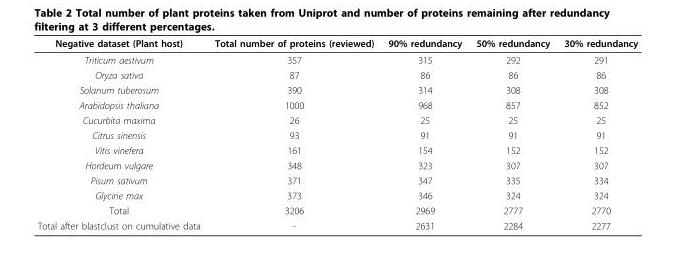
<table><thead><tr><td>Negative dataset (Plant host)</td><td>Total number of proteins (reviewed)</td><td>90% redundancy</td><td>50% redundancy</td><td>30% redundancy</td></tr></thead><tbody><tr><td>Triticum aestivum</td><td>357</td><td>315</td><td>292</td><td>291</td></tr><tr><td>Oryza sativa</td><td>87</td><td>86</td><td>86</td><td>86</td></tr><tr><td>Solanum tuberosum</td><td>390</td><td>314</td><td>308</td><td>308</td></tr><tr><td>Arabidopsis thaliana</td><td>1000</td><td>968</td><td>857</td><td>852</td></tr><tr><td>Cucurbita maxima</td><td>26</td><td>25</td><td>25</td><td>25</td></tr><tr><td>Citrus sinensis</td><td>93</td><td>91</td><td>91</td><td>91</td></tr><tr><td>Vitis vinefera</td><td>161</td><td>154</td><td>152</td><td>152</td></tr><tr><td>Hordeum vulgare</td><td>348</td><td>323</td><td>307</td><td>307</td></tr><tr><td>Pisum sativum</td><td>371</td><td>347</td><td>335</td><td>334</td></tr><tr><td>Glycine max</td><td>373</td><td>346</td><td>324</td><td>324</td></tr><tr><td>Total</td><td>3206</td><td>2969</td><td>2777</td><td>2770</td></tr><tr><td>Total after blastclust on cumulative data</td><td>-</td><td>2631</td><td>2284</td><td>2277</td></tr></tbody></table>